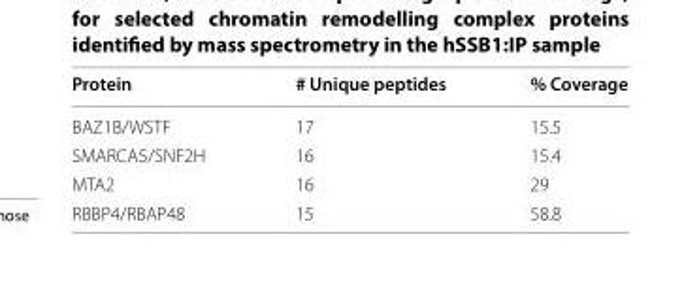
<table><thead><tr><td>Protein</td><td># Unique peptides</td><td>% Coverage</td></tr></thead><tbody><tr><td>BAZ1B/WSTF</td><td>17</td><td>15.5</td></tr><tr><td>SMARCA5/SNF2H</td><td>16</td><td>15.4</td></tr><tr><td>MTA2</td><td>16</td><td>29</td></tr><tr><td>RBBP4/RBAP48</td><td>15</td><td>58.8</td></tr></tbody></table>